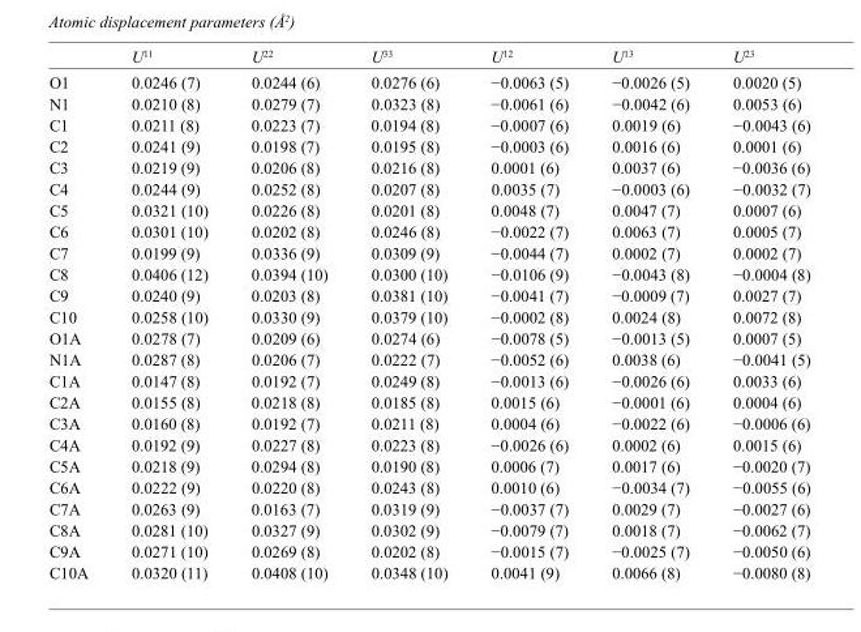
<table><thead><tr><td></td><td>U<sup>11</sup></td><td>U<sup>22</sup></td><td>U<sup>33</sup></td><td>U<sup>12</sup></td><td>U<sup>13</sup></td><td>U<sup>23</sup></td></tr></thead><tbody><tr><td>O1</td><td>0.0246 (7)</td><td>0.0244 (6)</td><td>0.0276 (6)</td><td>−0.0063 (5)</td><td>−0.0026 (5)</td><td>0.0020 (5)</td></tr><tr><td>N1</td><td>0.0210 (8)</td><td>0.0279 (7)</td><td>0.0323 (8)</td><td>−0.0061 (6)</td><td>−0.0042 (6)</td><td>0.0053 (6)</td></tr><tr><td>C1</td><td>0.0211 (8)</td><td>0.0223 (7)</td><td>0.0194 (8)</td><td>−0.0007 (6)</td><td>0.0019 (6)</td><td>−0.0043 (6)</td></tr><tr><td>C2</td><td>0.0241 (9)</td><td>0.0198 (7)</td><td>0.0195 (8)</td><td>−0.0003 (6)</td><td>0.0016 (6)</td><td>0.0001 (6)</td></tr><tr><td>C3</td><td>0.0219 (9)</td><td>0.0206 (8)</td><td>0.0216 (8)</td><td>0.0001 (6)</td><td>0.0037 (6)</td><td>−0.0036 (6)</td></tr><tr><td>C4</td><td>0.0244 (9)</td><td>0.0252 (8)</td><td>0.0207 (8)</td><td>0.0035 (7)</td><td>−0.0003 (6)</td><td>−0.0032 (7)</td></tr><tr><td>C5</td><td>0.0321 (10)</td><td>0.0226 (8)</td><td>0.0201 (8)</td><td>0.0048 (7)</td><td>0.0047 (7)</td><td>0.0007 (6)</td></tr><tr><td>C6</td><td>0.0301 (10)</td><td>0.0202 (8)</td><td>0.0246 (8)</td><td>−0.0022 (7)</td><td>0.0063 (7)</td><td>0.0005 (7)</td></tr><tr><td>C7</td><td>0.0199 (9)</td><td>0.0336 (9)</td><td>0.0309 (9)</td><td>−0.0044 (7)</td><td>0.0002 (7)</td><td>0.0002 (7)</td></tr><tr><td>C8</td><td>0.0406 (12)</td><td>0.0394 (10)</td><td>0.0300 (10)</td><td>−0.0106 (9)</td><td>−0.0043 (8)</td><td>−0.0004 (8)</td></tr><tr><td>C9</td><td>0.0240 (9)</td><td>0.0203 (8)</td><td>0.0381 (10)</td><td>−0.0041 (7)</td><td>−0.0009 (7)</td><td>0.0027 (7)</td></tr><tr><td>C10</td><td>0.0258 (10)</td><td>0.0330 (9)</td><td>0.0379 (10)</td><td>−0.0002 (8)</td><td>0.0024 (8)</td><td>0.0072 (8)</td></tr><tr><td>O1A</td><td>0.0278 (7)</td><td>0.0209 (6)</td><td>0.0274 (6)</td><td>−0.0078 (5)</td><td>−0.0013 (5)</td><td>0.0007 (5)</td></tr><tr><td>N1A</td><td>0.0287 (8)</td><td>0.0206 (7)</td><td>0.0222 (7)</td><td>−0.0052 (6)</td><td>0.0038 (6)</td><td>−0.0041 (5)</td></tr><tr><td>C1A</td><td>0.0147 (8)</td><td>0.0192 (7)</td><td>0.0249 (8)</td><td>−0.0013 (6)</td><td>−0.0026 (6)</td><td>0.0033 (6)</td></tr><tr><td>C2A</td><td>0.0155 (8)</td><td>0.0218 (8)</td><td>0.0185 (8)</td><td>0.0015 (6)</td><td>−0.0001 (6)</td><td>0.0004 (6)</td></tr><tr><td>C3A</td><td>0.0160 (8)</td><td>0.0192 (7)</td><td>0.0211 (8)</td><td>0.0004 (6)</td><td>−0.0022 (6)</td><td>−0.0006 (6)</td></tr><tr><td>C4A</td><td>0.0192 (9)</td><td>0.0227 (8)</td><td>0.0223 (8)</td><td>−0.0026 (6)</td><td>0.0002 (6)</td><td>0.0015 (6)</td></tr><tr><td>C5A</td><td>0.0218 (9)</td><td>0.0294 (8)</td><td>0.0190 (8)</td><td>0.0006 (7)</td><td>0.0017 (6)</td><td>−0.0020 (7)</td></tr><tr><td>C6A</td><td>0.0222 (9)</td><td>0.0220 (8)</td><td>0.0243 (8)</td><td>0.0010 (6)</td><td>−0.0034 (7)</td><td>−0.0055 (6)</td></tr><tr><td>C7A</td><td>0.0263 (9)</td><td>0.0163 (7)</td><td>0.0319 (9)</td><td>−0.0037 (7)</td><td>0.0029 (7)</td><td>−0.0027 (6)</td></tr><tr><td>C8A</td><td>0.0281 (10)</td><td>0.0327 (9)</td><td>0.0302 (9)</td><td>−0.0079 (7)</td><td>0.0018 (7)</td><td>−0.0062 (7)</td></tr><tr><td>C9A</td><td>0.0271 (10)</td><td>0.0269 (8)</td><td>0.0202 (8)</td><td>−0.0015 (7)</td><td>−0.0025 (7)</td><td>−0.0050 (6)</td></tr><tr><td>C10A</td><td>0.0320 (11)</td><td>0.0408 (10)</td><td>0.0348 (10)</td><td>0.0041 (9)</td><td>0.0066 (8)</td><td>−0.0080 (8)</td></tr></tbody></table>